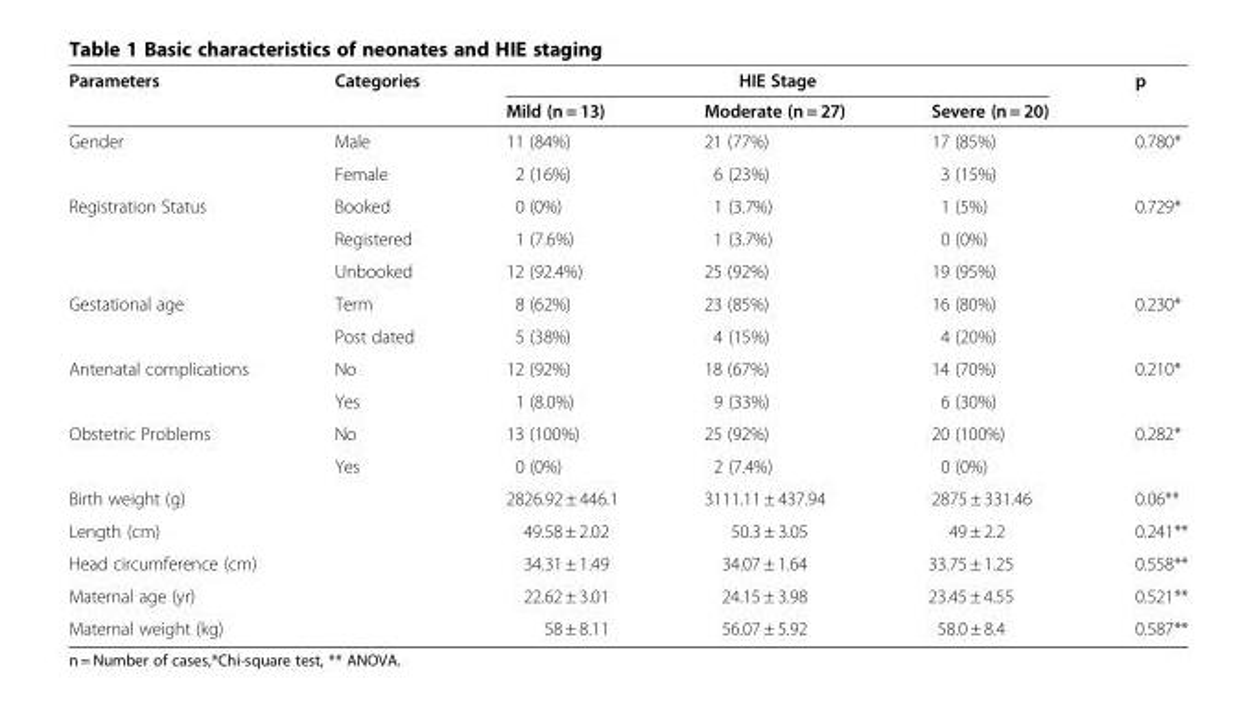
<table><thead><tr><td rowspan="2">Parameters</td><td rowspan="2">Categories</td><td colspan="3">HIE Stage</td><td rowspan="2">p</td></tr><tr><td>Mild (n = 13)</td><td>Moderate (n = 27)</td><td>Severe (n = 20)</td></tr></thead><tbody><tr><td rowspan="2">Gender</td><td>Male</td><td>11 (84%)</td><td>21 (77%)</td><td>17 (85%)</td><td rowspan="2">0.780*</td></tr><tr><td>Female</td><td>2 (16%)</td><td>6 (23%)</td><td>3 (15%)</td></tr><tr><td rowspan="3">Registration Status</td><td>Booked</td><td>0 (0%)</td><td>1 (3.7%)</td><td>1 (5%)</td><td rowspan="3">0.729*</td></tr><tr><td>Registered</td><td>1 (7.6%)</td><td>1 (3.7%)</td><td>0 (0%)</td></tr><tr><td>Unbooked</td><td>12 (92.4%)</td><td>25 (92%)</td><td>19 (95%)</td></tr><tr><td rowspan="2">Gestational age</td><td>Term</td><td>8 (62%)</td><td>23 (85%)</td><td>16 (80%)</td><td rowspan="2">0.230*</td></tr><tr><td>Post dated</td><td>5 (38%)</td><td>4 (15%)</td><td>4 (20%)</td></tr><tr><td rowspan="2">Antenatal complications</td><td>No</td><td>12 (92%)</td><td>18 (67%)</td><td>14 (70%)</td><td rowspan="2">0.210*</td></tr><tr><td>Yes</td><td>1 (8.0%)</td><td>9 (33%)</td><td>6 (30%)</td></tr><tr><td rowspan="2">Obstetric Problems</td><td>No</td><td>13 (100%)</td><td>25 (92%)</td><td>20 (100%)</td><td rowspan="2">0.282*</td></tr><tr><td>Yes</td><td>0 (0%)</td><td>2 (7.4%)</td><td>0 (0%)</td></tr><tr><td colspan="2">Birth weight (g)</td><td>2826.92 ± 446.1</td><td>3111.11 ± 437.94</td><td>2875 ± 331.46</td><td>0.06**</td></tr><tr><td colspan="2">Length (cm)</td><td>49.58 ± 2.02</td><td>50.3 ± 3.05</td><td>49 ± 2.2</td><td>0.241**</td></tr><tr><td colspan="2">Head circumference (cm)</td><td>34.31 ± 1.49</td><td>34.07 ± 1.64</td><td>33.75 ± 1.25</td><td>0.558**</td></tr><tr><td colspan="2">Maternal age (yr)</td><td>22.62 ± 3.01</td><td>24.15 ± 3.98</td><td>23.45 ± 4.55</td><td>0.521**</td></tr><tr><td colspan="2">Maternal weight (kg)</td><td>58 ± 8.11</td><td>56.07 ± 5.92</td><td>58.0 ± 8.4</td><td>0.587**</td></tr></tbody></table>